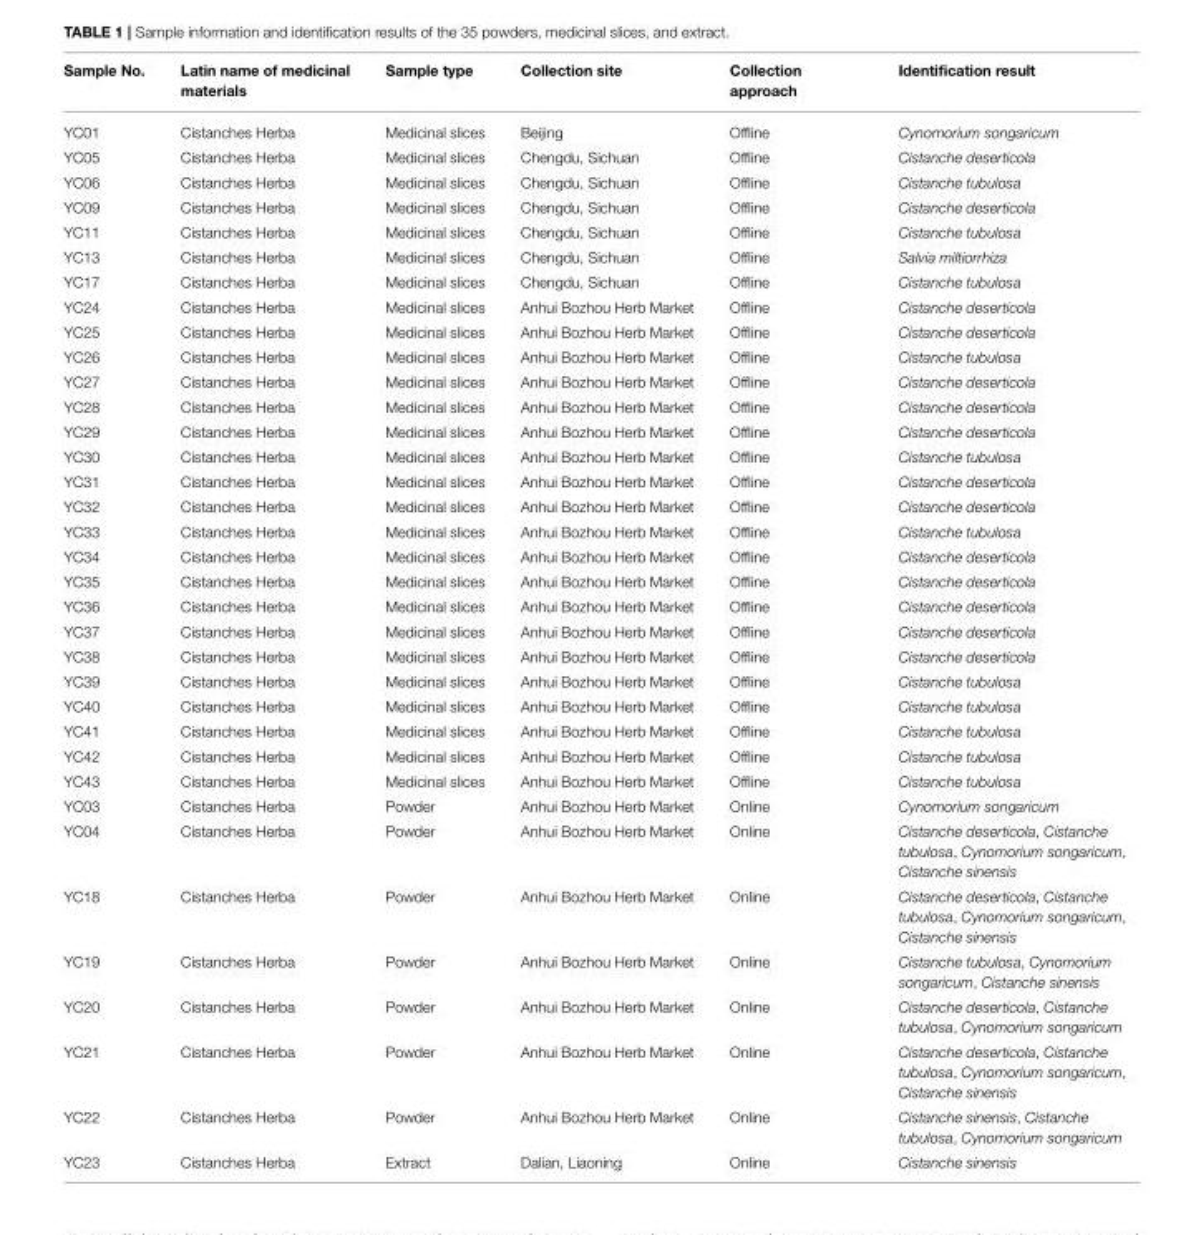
<table><thead><tr><td>Sample No.</td><td>Latin name of medicinal materials</td><td>Sample type</td><td>Collection site</td><td>Collection approach</td><td>Identification result</td></tr></thead><tbody><tr><td>YC01</td><td>Cistanches Herba</td><td>Medicinal slices</td><td>Beijing</td><td>Offline</td><td>Cynomorium songaricum</td></tr><tr><td>YC05</td><td>Cistanches Herba</td><td>Medicinal slices</td><td>Chengdu, Sichuan</td><td>Offline</td><td>Cistanche deserticola</td></tr><tr><td>YC06</td><td>Cistanches Herba</td><td>Medicinal slices</td><td>Chengdu, Sichuan</td><td>Offline</td><td>Cistanche tubulosa</td></tr><tr><td>YC09</td><td>Cistanches Herba</td><td>Medicinal slices</td><td>Chengdu, Sichuan</td><td>Offline</td><td>Cistanche deserticola</td></tr><tr><td>YC11</td><td>Cistanches Herba</td><td>Medicinal slices</td><td>Chengdu, Sichuan</td><td>Offline</td><td>Cistanche tubulosa</td></tr><tr><td>YC13</td><td>Cistanches Herba</td><td>Medicinal slices</td><td>Chengdu, Sichuan</td><td>Offline</td><td>Salvia miltiorrhiza</td></tr><tr><td>YC17</td><td>Cistanches Herba</td><td>Medicinal slices</td><td>Chengdu, Sichuan</td><td>Offline</td><td>Cistanche tubulosa</td></tr><tr><td>YC24</td><td>Cistanches Herba</td><td>Medicinal slices</td><td>Anhui Bozhou Herb Market</td><td>Offline</td><td>Cistanche deserticola</td></tr><tr><td>YC25</td><td>Cistanches Herba</td><td>Medicinal slices</td><td>Anhui Bozhou Herb Market</td><td>Offline</td><td>Cistanche deserticola</td></tr><tr><td>YC26</td><td>Cistanches Herba</td><td>Medicinal slices</td><td>Anhui Bozhou Herb Market</td><td>Offline</td><td>Cistanche tubulosa</td></tr><tr><td>YC27</td><td>Cistanches Herba</td><td>Medicinal slices</td><td>Anhui Bozhou Herb Market</td><td>Offline</td><td>Cistanche deserticola</td></tr><tr><td>YC28</td><td>Cistanches Herba</td><td>Medicinal slices</td><td>Anhui Bozhou Herb Market</td><td>Offline</td><td>Cistanche deserticola</td></tr><tr><td>YC29</td><td>Cistanches Herba</td><td>Medicinal slices</td><td>Anhui Bozhou Herb Market</td><td>Offline</td><td>Cistanche deserticola</td></tr><tr><td>YC30</td><td>Cistanches Herba</td><td>Medicinal slices</td><td>Anhui Bozhou Herb Market</td><td>Offline</td><td>Cistanche tubulosa</td></tr><tr><td>YC31</td><td>Cistanches Herba</td><td>Medicinal slices</td><td>Anhui Bozhou Herb Market</td><td>Offline</td><td>Cistanche deserticola</td></tr><tr><td>YC32</td><td>Cistanches Herba</td><td>Medicinal slices</td><td>Anhui Bozhou Herb Market</td><td>Offline</td><td>Cistanche deserticola</td></tr><tr><td>YC33</td><td>Cistanches Herba</td><td>Medicinal slices</td><td>Anhui Bozhou Herb Market</td><td>Offline</td><td>Cistanche tubulosa</td></tr><tr><td>YC34</td><td>Cistanches Herba</td><td>Medicinal slices</td><td>Anhui Bozhou Herb Market</td><td>Offline</td><td>Cistanche deserticola</td></tr><tr><td>YC35</td><td>Cistanches Herba</td><td>Medicinal slices</td><td>Anhui Bozhou Herb Market</td><td>Offline</td><td>Cistanche deserticola</td></tr><tr><td>YC36</td><td>Cistanches Herba</td><td>Medicinal slices</td><td>Anhui Bozhou Herb Market</td><td>Offline</td><td>Cistanche deserticola</td></tr><tr><td>YC37</td><td>Cistanches Herba</td><td>Medicinal slices</td><td>Anhui Bozhou Herb Market</td><td>Offline</td><td>Cistanche deserticola</td></tr><tr><td>YC38</td><td>Cistanches Herba</td><td>Medicinal slices</td><td>Anhui Bozhou Herb Market</td><td>Offline</td><td>Cistanche deserticola</td></tr><tr><td>YC39</td><td>Cistanches Herba</td><td>Medicinal slices</td><td>Anhui Bozhou Herb Market</td><td>Offline</td><td>Cistanche tubulosa</td></tr><tr><td>YC40</td><td>Cistanches Herba</td><td>Medicinal slices</td><td>Anhui Bozhou Herb Market</td><td>Offline</td><td>Cistanche tubulosa</td></tr><tr><td>YC41</td><td>Cistanches Herba</td><td>Medicinal slices</td><td>Anhui Bozhou Herb Market</td><td>Offline</td><td>Cistanche tubulosa</td></tr><tr><td>YC42</td><td>Cistanches Herba</td><td>Medicinal slices</td><td>Anhui Bozhou Herb Market</td><td>Offline</td><td>Cistanche tubulosa</td></tr><tr><td>YC43</td><td>Cistanches Herba</td><td>Medicinal slices</td><td>Anhui Bozhou Herb Market</td><td>Offline</td><td>Cistanche tubulosa</td></tr><tr><td>YC03</td><td>Cistanches Herba</td><td>Powder</td><td>Anhui Bozhou Herb Market</td><td>Online</td><td>Cynomorium songaricum</td></tr><tr><td>YC04</td><td>Cistanches Herba</td><td>Powder</td><td>Anhui Bozhou Herb Market</td><td>Online</td><td>Cistanche deserticola, Cistanche tubulosa, Cynomorium songaricum, Cistanche sinensis</td></tr><tr><td>YC18</td><td>Cistanches Herba</td><td>Powder</td><td>Anhui Bozhou Herb Market</td><td>Online</td><td>Cistanche deserticola, Cistanche tubulosa, Cynomorium songaricum, Cistanche sinensis</td></tr><tr><td>YC19</td><td>Cistanches Herba</td><td>Powder</td><td>Anhui Bozhou Herb Market</td><td>Online</td><td>Cistanche tubulosa, Cynomorium songaricum, Cistanche sinensis</td></tr><tr><td>YC20</td><td>Cistanches Herba</td><td>Powder</td><td>Anhui Bozhou Herb Market</td><td>Online</td><td>Cistanche deserticola, Cistanche tubulosa, Cynomorium songaricum</td></tr><tr><td>YC21</td><td>Cistanches Herba</td><td>Powder</td><td>Anhui Bozhou Herb Market</td><td>Online</td><td>Cistanche deserticola, Cistanche tubulosa, Cynomorium songaricum, Cistanche sinensis</td></tr><tr><td>YC22</td><td>Cistanches Herba</td><td>Powder</td><td>Anhui Bozhou Herb Market</td><td>Online</td><td>Cistanche sinensis, Cistanche tubulosa, Cynomorium songaricum</td></tr><tr><td>YC23</td><td>Cistanches Herba</td><td>Extract</td><td>Dalian, Liaoning</td><td>Online</td><td>Cistanche sinensis</td></tr></tbody></table>